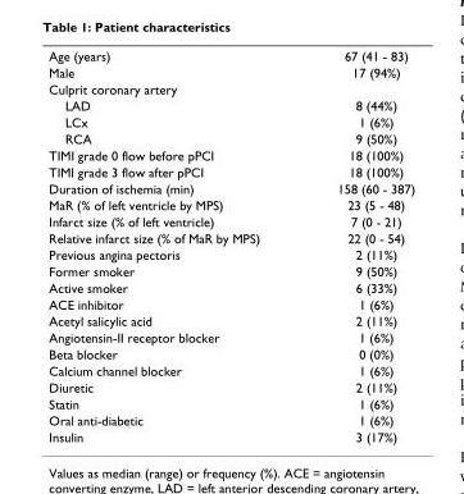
<table><tbody><tr><td>Age (years)</td><td>67 (41 - 83)</td></tr><tr><td>Male</td><td>17 (94%)</td></tr><tr><td colspan="2">Culprit coronary artery</td></tr><tr><td>LAD</td><td>8 (44%)</td></tr><tr><td>LCx</td><td>1 (6%)</td></tr><tr><td>RCA</td><td>9 (50%)</td></tr><tr><td>TIMI grade 0 flow before pPCI</td><td>18 (100%)</td></tr><tr><td>TIMI grade 3 flow after pPCI</td><td>18 (100%)</td></tr><tr><td>Duration of ischemia (min)</td><td>158 (60 - 387)</td></tr><tr><td>MaR (% of left ventricle by MPS)</td><td>23 (5 - 48)</td></tr><tr><td>Infarct size (% of left ventricle)</td><td>7 (0 - 21)</td></tr><tr><td>Relative infarct size (% of MaR by MPS)</td><td>22 (0 - 54)</td></tr><tr><td>Previous angina pectoris</td><td>2 (11%)</td></tr><tr><td>Former smoker</td><td>9 (50%)</td></tr><tr><td>Active smoker</td><td>6 (33%)</td></tr><tr><td>ACE inhibitor</td><td>1 (6%)</td></tr><tr><td>Acetyl salicylic acid</td><td>2 (11%)</td></tr><tr><td>Angiotensin-II receptor blocker</td><td>1 (6%)</td></tr><tr><td>Beta blocker</td><td>0 (0%)</td></tr><tr><td>Calcium channel blocker</td><td>1 (6%)</td></tr><tr><td>Diuretic</td><td>2 (11%)</td></tr><tr><td>Statin</td><td>1 (6%)</td></tr><tr><td>Oral anti-diabetic</td><td>1 (6%)</td></tr><tr><td>Insulin</td><td>3 (17%)</td></tr></tbody></table>